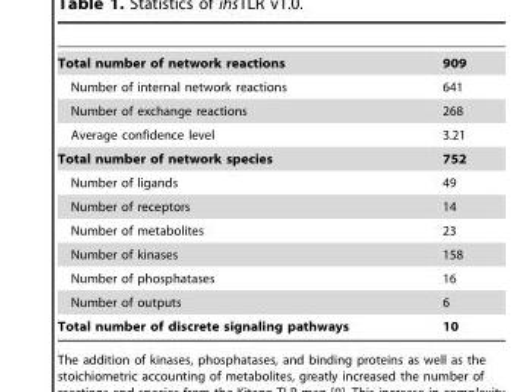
<table><tbody><tr><td>Total number of network reactions</td><td>909</td></tr><tr><td>Number of internal network reactions</td><td>641</td></tr><tr><td>Number of exchange reactions</td><td>268</td></tr><tr><td>Average confidence level</td><td>3.21</td></tr><tr><td>Total number of network species</td><td>752</td></tr><tr><td>Number of ligands</td><td>49</td></tr><tr><td>Number of receptors</td><td>14</td></tr><tr><td>Number of metabolites</td><td>23</td></tr><tr><td>Number of kinases</td><td>158</td></tr><tr><td>Number of phosphatases</td><td>16</td></tr><tr><td>Number of outputs</td><td>6</td></tr><tr><td>Total number of discrete signaling pathways</td><td>10</td></tr></tbody></table>